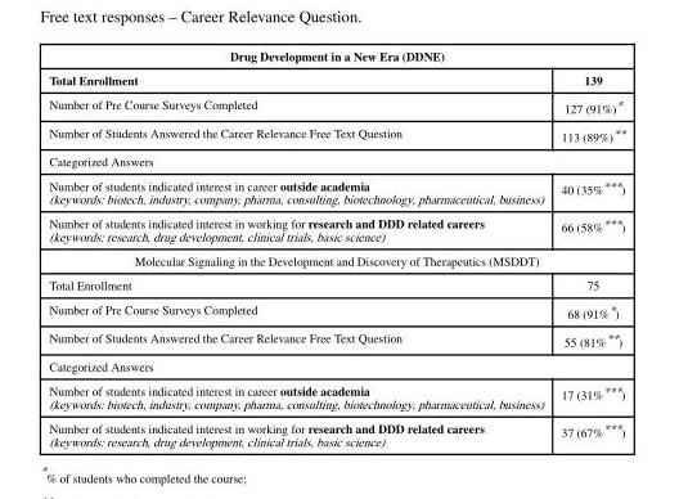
<table><thead><tr><td colspan="2">Drug Development in a New Era (DDNE)</td></tr><tr><td>Total Enrollment</td><td>139</td></tr></thead><tbody><tr><td>Number of Pre Course Surveys Completed</td><td>127 (91%)*</td></tr><tr><td>Number of Students Answered the Career Relevance Free Text Question</td><td>113 (89%)**</td></tr><tr><td colspan="2">Categorized Answers</td></tr><tr><td>Number of students indicated interest in career outside academia (keywords: biotech, industry, company, pharma, consulting, biotechnology, pharmaceutical, business)</td><td>40 (35%***)</td></tr><tr><td>Number of students indicated interest in working for research and DDD related careers (keywords: research, drug development, clinical trials, basic science)</td><td>66 (58%***)</td></tr><tr><td colspan="2">Molecular Signaling in the Development and Discovery of Therapeutics (MSDDT)</td></tr><tr><td>Total Enrollment</td><td>75</td></tr><tr><td>Number of Pre Course Surveys Completed</td><td>68 (91%*)</td></tr><tr><td>Number of Students Answered the Career Relevance Free Text Question</td><td>55 (81%**)</td></tr><tr><td colspan="2">Categorized Answers</td></tr><tr><td>Number of students indicated interest in career outside academia (keywords: biotech, industry, company, pharma, consulting, biotechnology, pharmaceutical, business)</td><td>17 (31%***)</td></tr><tr><td>Number of students indicated interest in working for research and DDD related careers (keywords: research, drug development, clinical trials, basic science)</td><td>37 (67%***)</td></tr></tbody></table>